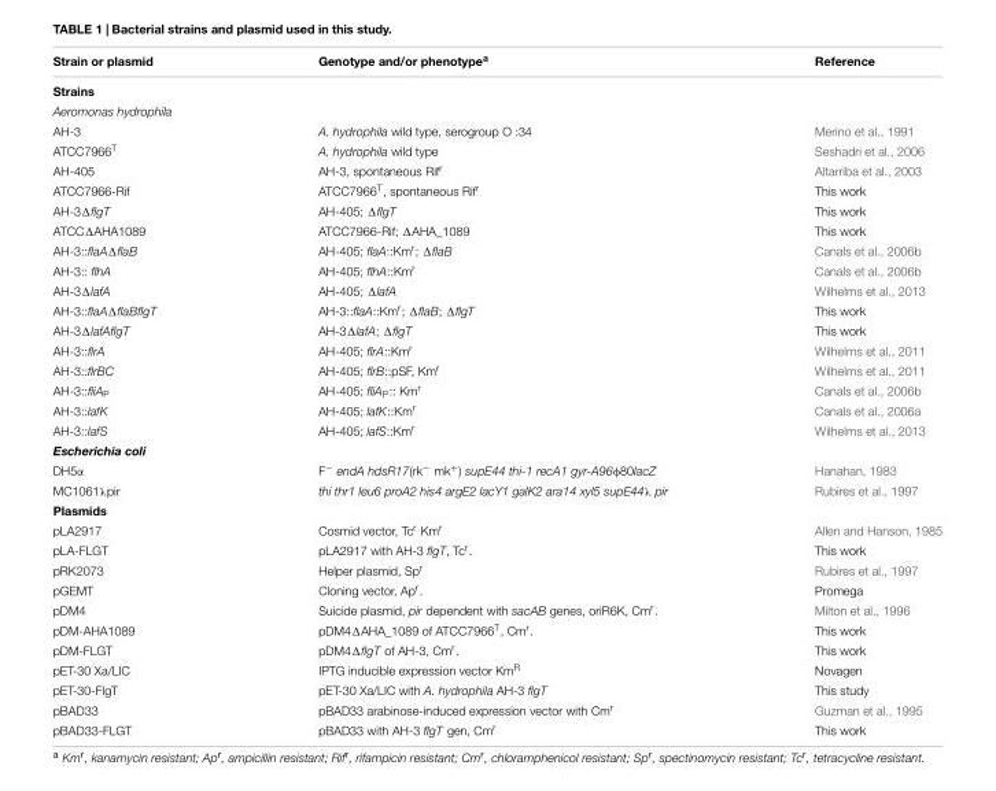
<table><thead><tr><td>Strain or plasmid</td><td>Genotype and/or phenotype<sup>a</sup></td><td>Reference</td></tr></thead><tbody><tr><td colspan="3">Strains</td></tr><tr><td colspan="3">Aeromonas hydrophila</td></tr><tr><td>AH-3</td><td>A. hydrophila wild type, serogroup O :34</td><td>Merino et al., 1991</td></tr><tr><td>ATCC7966<sup>T</sup></td><td>A. hydrophila wild type</td><td>Seshadri et al., 2006</td></tr><tr><td>AH-405</td><td>AH-3, spontaneous Rif<sup>r</sup></td><td>Altarriba et al., 2003</td></tr><tr><td>ATCC7966-Rif</td><td>ATCC7966<sup>T</sup>, spontaneous Rif<sup>r</sup></td><td>This work</td></tr><tr><td>AH-3ΔflgT</td><td>AH-405; ΔflgT</td><td>This work</td></tr><tr><td>ATCCΔAHA1089</td><td>ATCC7966-Rif; ΔAHA_1089</td><td>This work</td></tr><tr><td>AH-3::flaAΔflaB</td><td>AH-405; flaA::Km<sup>r</sup>; ΔflaB</td><td>Canals et al., 2006b</td></tr><tr><td>AH-3:: flhA</td><td>AH-405; flhA::Km<sup>r</sup></td><td>Canals et al., 2006b</td></tr><tr><td>AH-3ΔlafA</td><td>AH-405; ΔlafA</td><td>Wilhelms et al., 2013</td></tr><tr><td>AH-3::flaAΔflaBflgT</td><td>AH-3::flaA::Km<sup>r</sup>; ΔflaB; ΔflgT</td><td>This work</td></tr><tr><td>AH-3ΔlafAflgT</td><td>AH-3ΔlafA; ΔflgT</td><td>This work</td></tr><tr><td>AH-3::flrA</td><td>AH-405; flrA::Km<sup>r</sup></td><td>Wilhelms et al., 2011</td></tr><tr><td>AH-3::flrBC</td><td>AH-405; flrB::pSF, Km<sup>r</sup></td><td>Wilhelms et al., 2011</td></tr><tr><td>AH-3::fliA<sub>P</sub></td><td>AH-405; fliA<sub>P</sub>:: Km<sup>r</sup></td><td>Canals et al., 2006b</td></tr><tr><td>AH-3::lafK</td><td>AH-405; lafK::Km<sup>r</sup></td><td>Canals et al., 2006a</td></tr><tr><td>AH-3::lafS</td><td>AH-405; lafS::Km<sup>r</sup></td><td>Wilhelms et al., 2013</td></tr><tr><td colspan="3">Escherichia coli</td></tr><tr><td>DH5α</td><td>F<sup>−</sup> endA hdsR17(rk<sup>−</sup> mk<sup>+</sup>) supE44 thi-1 recA1 gyr-A96φ80lacZ</td><td>Hanahan, 1983</td></tr><tr><td>MC1061λpir</td><td>thi thr1 leu6 proA2 his4 argE2 lacY1 galK2 ara14 xyl5 supE44λ pir</td><td>Rubires et al., 1997</td></tr><tr><td colspan="3">Plasmids</td></tr><tr><td>pLA2917</td><td>Cosmid vector, Tc<sup>r</sup> Km<sup>r</sup></td><td>Allen and Hanson, 1985</td></tr><tr><td>pLA-FLGT</td><td>pLA2917 with AH-3 flgT, Tc<sup>r</sup>.</td><td>This work</td></tr><tr><td>pRK2073</td><td>Helper plasmid, Sp<sup>r</sup></td><td>Rubires et al., 1997</td></tr><tr><td>pGEMT</td><td>Cloning vector, Ap<sup>r</sup>.</td><td>Promega</td></tr><tr><td>pDM4</td><td>Suicide plasmid, pir dependent with sacAB genes, oriR6K, Cm<sup>r</sup>.</td><td>Milton et al., 1996</td></tr><tr><td>pDM-AHA1089</td><td>pDM4ΔAHA_1089 of ATCC7966<sup>T</sup>, Cm<sup>r</sup>.</td><td>This work</td></tr><tr><td>pDM-FLGT</td><td>pDM4ΔflgT of AH-3, Cm<sup>r</sup>.</td><td>This work</td></tr><tr><td>pET-30 Xa/LIC</td><td>IPTG inducible expression vector Km<sup>R</sup></td><td>Novagen</td></tr><tr><td>pET-30-FlgT</td><td>pET-30 Xa/LIC with A. hydrophila AH-3 flgT</td><td>This study</td></tr><tr><td>pBAD33</td><td>pBAD33 arabinose-induced expression vector with Cm<sup>r</sup></td><td>Guzman et al., 1995</td></tr><tr><td>pBAD33-FLGT</td><td>pBAD33 with AH-3 flgT gen, Cm<sup>r</sup></td><td>This work</td></tr></tbody></table>